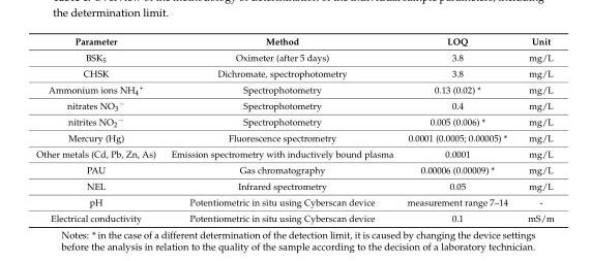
<table><thead><tr><td>Parameter</td><td>Method</td><td>LOQ</td><td>Unit</td></tr></thead><tbody><tr><td>BSK<sub>5</sub></td><td>Oximeter (after 5 days)</td><td>3.8</td><td>mg/L</td></tr><tr><td>CHSK</td><td>Dichromate, spectrophotometry</td><td>3.8</td><td>mg/L</td></tr><tr><td>Ammonium ions NH<sub>4</sub><sup>+</sup></td><td>Spectrophotometry</td><td>0.13 (0.02) *</td><td>mg/L</td></tr><tr><td>nitrates NO<sub>3</sub><sup>−</sup></td><td>Spectrophotometry</td><td>0.4</td><td>mg/L</td></tr><tr><td>nitrites NO<sub>2</sub><sup>−</sup></td><td>Spectrophotometry</td><td>0.005 (0.006) *</td><td>mg/L</td></tr><tr><td>Mercury (Hg)</td><td>Fluorescence spectrometry</td><td>0.0001 (0.0005; 0.00005) *</td><td>mg/L</td></tr><tr><td>Other metals (Cd, Pb, Zn, As)</td><td>Emission spectrometry with inductively bound plasma</td><td>0.0001</td><td>mg/L</td></tr><tr><td>PAU</td><td>Gas chromatography</td><td>0.00006 (0.00009) *</td><td>mg/L</td></tr><tr><td>NEL</td><td>Infrared spectrometry</td><td>0.05</td><td>mg/L</td></tr><tr><td>pH</td><td>Potentiometric in situ using Cyberscan device</td><td>measurement range 7–14</td><td>-</td></tr><tr><td>Electrical conductivity</td><td>Potentiometric in situ using Cyberscan device</td><td>0.1</td><td>mS/m</td></tr></tbody></table>